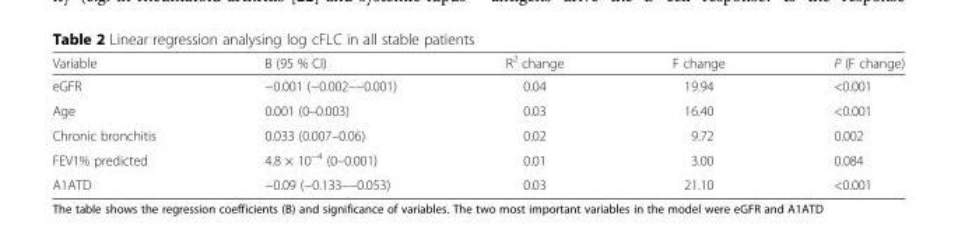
<table><thead><tr><td>Variable</td><td>B (95 % CI)</td><td>R<sup>2</sup> change</td><td>F change</td><td>P (F change)</td></tr></thead><tbody><tr><td>eGFR</td><td>−0.001 (−0.002–−0.001)</td><td>0.04</td><td>19.94</td><td>&lt;0.001</td></tr><tr><td>Age</td><td>0.001 (0–0.003)</td><td>0.03</td><td>16.40</td><td>&lt;0.001</td></tr><tr><td>Chronic bronchitis</td><td>0.033 (0.007–0.06)</td><td>0.02</td><td>9.72</td><td>0.002</td></tr><tr><td>FEV1% predicted</td><td>4.8 × 10<sup>−4</sup> (0–0.001)</td><td>0.01</td><td>3.00</td><td>0.084</td></tr><tr><td>A1ATD</td><td>−0.09 (−0.133–−0.053)</td><td>0.03</td><td>21.10</td><td>&lt;0.001</td></tr></tbody></table>